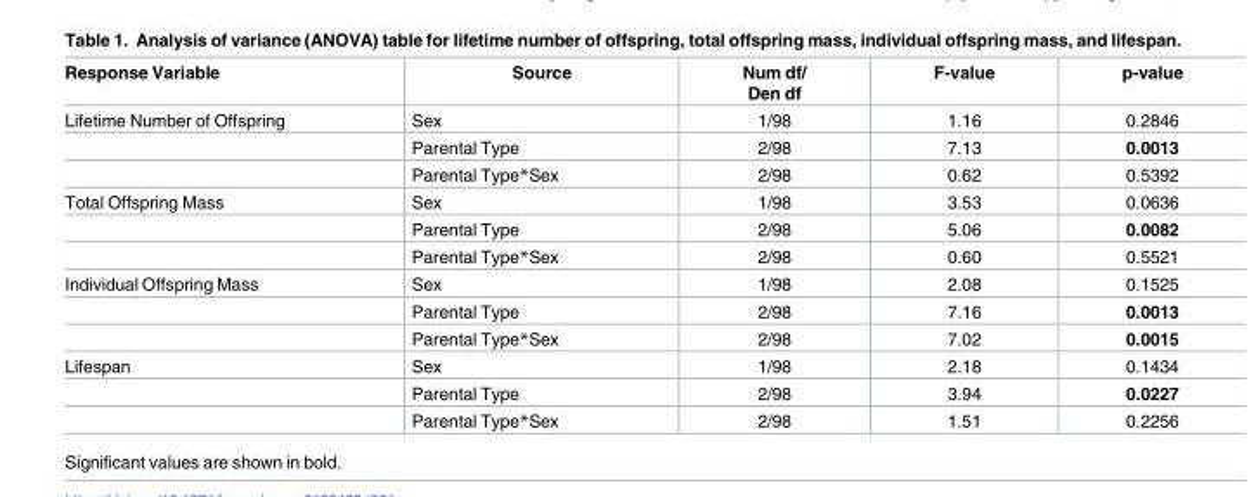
<table><thead><tr><td>Response Variable</td><td>Source</td><td>Num df/ Den df</td><td>F-value</td><td>p-value</td></tr></thead><tbody><tr><td rowspan="3">Lifetime Number of Offspring</td><td>Sex</td><td>1/98</td><td>1.16</td><td>0.2846</td></tr><tr><td>Parental Type</td><td>2/98</td><td>7.13</td><td>0.0013</td></tr><tr><td>Parental Type*Sex</td><td>2/98</td><td>0.62</td><td>0.5392</td></tr><tr><td rowspan="3">Total Offspring Mass</td><td>Sex</td><td>1/98</td><td>3.53</td><td>0.0636</td></tr><tr><td>Parental Type</td><td>2/98</td><td>5.06</td><td>0.0082</td></tr><tr><td>Parental Type*Sex</td><td>2/98</td><td>0.60</td><td>0.5521</td></tr><tr><td rowspan="3">Individual Offspring Mass</td><td>Sex</td><td>1/98</td><td>2.08</td><td>0.1525</td></tr><tr><td>Parental Type</td><td>2/98</td><td>7.16</td><td>0.0013</td></tr><tr><td>Parental Type*Sex</td><td>2/98</td><td>7.02</td><td>0.0015</td></tr><tr><td rowspan="3">Lifespan</td><td>Sex</td><td>1/98</td><td>2.18</td><td>0.1434</td></tr><tr><td>Parental Type</td><td>2/98</td><td>3.94</td><td>0.0227</td></tr><tr><td>Parental Type*Sex</td><td>2/98</td><td>1.51</td><td>0.2256</td></tr></tbody></table>